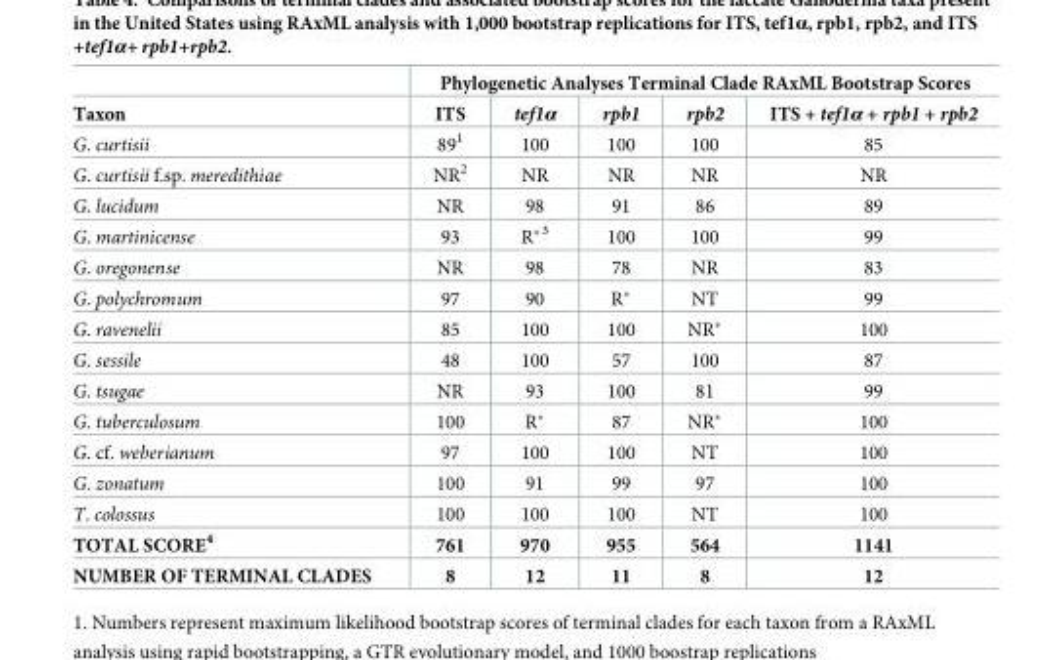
<table><thead><tr><td rowspan="2">Taxon</td><td colspan="5">Phylogenetic Analyses Terminal Clade RAxML Bootstrap Scores</td></tr><tr><td>ITS</td><td>tef1α</td><td>rpb1</td><td>rpb2</td><td>ITS + tef1α + rpb1 + rpb2</td></tr></thead><tbody><tr><td>G. curtisii</td><td>89<sup>1</sup></td><td>100</td><td>100</td><td>100</td><td>85</td></tr><tr><td>G. curtisii f.sp. meredithiae</td><td>NR<sup>2</sup></td><td>NR</td><td>NR</td><td>NR</td><td>NR</td></tr><tr><td>G. lucidum</td><td>NR</td><td>98</td><td>91</td><td>86</td><td>89</td></tr><tr><td>G. martinicense</td><td>93</td><td>R*<sup>3</sup></td><td>100</td><td>100</td><td>99</td></tr><tr><td>G. oregonense</td><td>NR</td><td>98</td><td>78</td><td>NR</td><td>83</td></tr><tr><td>G. polychromum</td><td>97</td><td>90</td><td>R*</td><td>NT</td><td>99</td></tr><tr><td>G. ravenelii</td><td>85</td><td>100</td><td>100</td><td>NR*</td><td>100</td></tr><tr><td>G. sessile</td><td>48</td><td>100</td><td>57</td><td>100</td><td>87</td></tr><tr><td>G. tsugae</td><td>NR</td><td>93</td><td>100</td><td>81</td><td>99</td></tr><tr><td>G. tuberculosum</td><td>100</td><td>R*</td><td>87</td><td>NR*</td><td>100</td></tr><tr><td>G. cf. weberianum</td><td>97</td><td>100</td><td>100</td><td>NT</td><td>100</td></tr><tr><td>G. zonatum</td><td>100</td><td>91</td><td>99</td><td>97</td><td>100</td></tr><tr><td>T. colossus</td><td>100</td><td>100</td><td>100</td><td>NT</td><td>100</td></tr><tr><td>TOTAL SCORE<sup>4</sup></td><td>761</td><td>970</td><td>955</td><td>564</td><td>1141</td></tr><tr><td>NUMBER OF TERMINAL CLADES</td><td>8</td><td>12</td><td>11</td><td>8</td><td>12</td></tr></tbody></table>